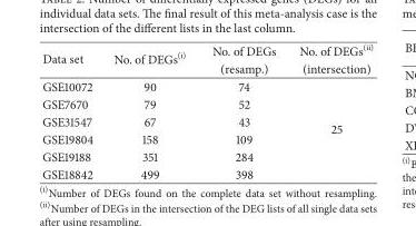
<table><thead><tr><td rowspan="2">Data set</td><td rowspan="2">No. of DEGs<sup>(i)</sup></td><td rowspan="2">No. of DEGs (resamp.)</td><td rowspan="2">No. of DEGs<sup>(ii)</sup> (intersection)</td></tr><tr></tr></thead><tbody><tr><td>GSE10072</td><td>90</td><td>74</td><td rowspan="6">25</td></tr><tr><td>GSE7670</td><td>79</td><td>52</td></tr><tr><td>GSE31547</td><td>67</td><td>43</td></tr><tr><td>GSE19804</td><td>158</td><td>109</td></tr><tr><td>GSE19188</td><td>351</td><td>284</td></tr><tr><td>GSE18842</td><td>499</td><td>398</td></tr></tbody></table>